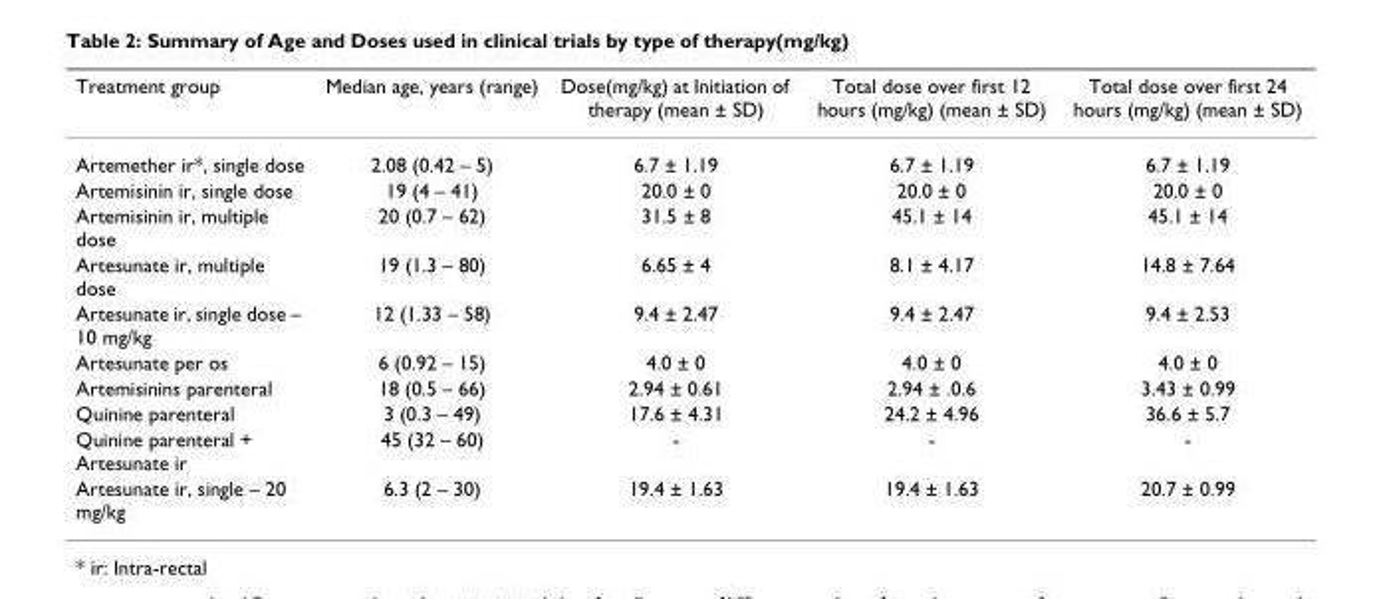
<table><thead><tr><td>Treatment group</td><td>Median age, years (range)</td><td>Dose(mg/kg) at Initiation of therapy (mean ± SD)</td><td>Total dose over first 12 hours (mg/kg) (mean ± SD)</td><td>Total dose over first 24 hours (mg/kg) (mean ± SD)</td></tr></thead><tbody><tr><td>Artemether ir*, single dose</td><td>2.08 (0.42 – 5)</td><td>6.7 ± 1.19</td><td>6.7 ± 1.19</td><td>6.7 ± 1.19</td></tr><tr><td>Artemisinin ir, single dose</td><td>19 (4 – 41)</td><td>20.0 ± 0</td><td>20.0 ± 0</td><td>20.0 ± 0</td></tr><tr><td>Artemisinin ir, multiple dose</td><td>20 (0.7 – 62)</td><td>31.5 ± 8</td><td>45.1 ± 14</td><td>45.1 ± 14</td></tr><tr><td>Artesunate ir, multiple dose</td><td>19 (1.3 – 80)</td><td>6.65 ± 4</td><td>8.1 ± 4.17</td><td>14.8 ± 7.64</td></tr><tr><td>Artesunate ir, single dose – 10 mg/kg</td><td>12 (1.33 – 58)</td><td>9.4 ± 2.47</td><td>9.4 ± 2.47</td><td>9.4 ± 2.53</td></tr><tr><td>Artesunate per os</td><td>6 (0.92 – 15)</td><td>4.0 ± 0</td><td>4.0 ± 0</td><td>4.0 ± 0</td></tr><tr><td>Artemisinins parenteral</td><td>18 (0.5 – 66)</td><td>2.94 ± 0.61</td><td>2.94 ± .0.6</td><td>3.43 ± 0.99</td></tr><tr><td>Quinine parenteral</td><td>3 (0.3 – 49)</td><td>17.6 ± 4.31</td><td>24.2 ± 4.96</td><td>36.6 ± 5.7</td></tr><tr><td>Quinine parenteral + Artesunate ir</td><td>45 (32 – 60)</td><td>-</td><td>-</td><td>-</td></tr><tr><td>Artesunate ir, single – 20 mg/kg</td><td>6.3 (2 – 30)</td><td>19.4 ± 1.63</td><td>19.4 ± 1.63</td><td>20.7 ± 0.99</td></tr></tbody></table>